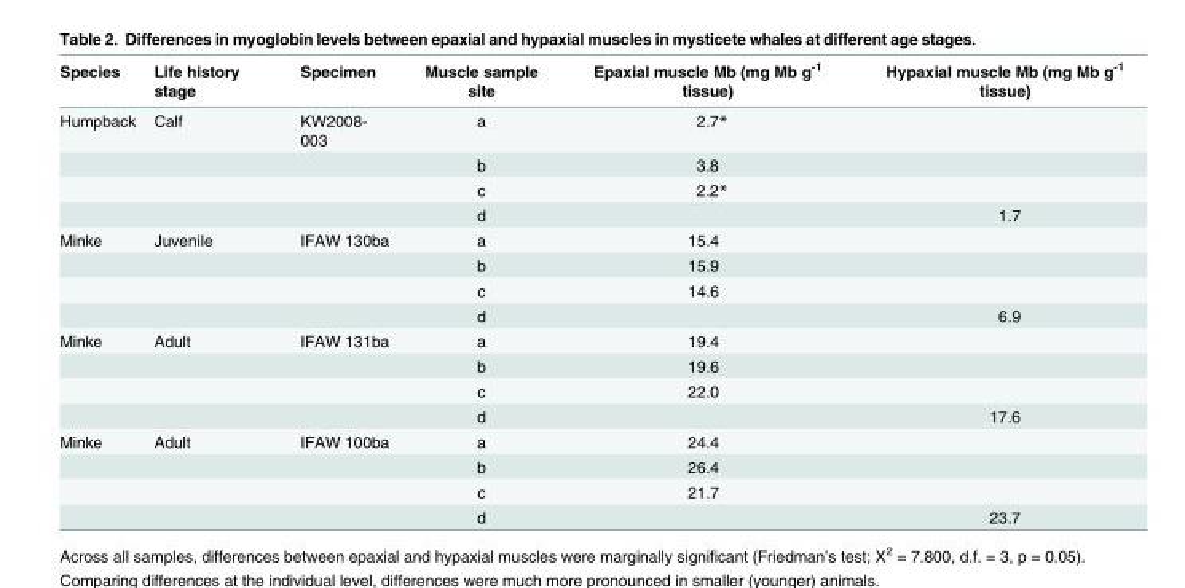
<table><thead><tr><td>Species</td><td>Life history stage</td><td>Specimen</td><td>Muscle sample site</td><td>Epaxial muscle Mb (mg Mb g<sup>-1</sup> tissue)</td><td>Hypaxial muscle Mb (mg Mb g<sup>-1</sup> tissue)</td></tr></thead><tbody><tr><td rowspan="4">Humpback</td><td>Calf</td><td>KW2008- 003</td><td>a</td><td>2.7*</td><td></td></tr><tr><td></td><td></td><td>b</td><td>3.8</td><td></td></tr><tr><td></td><td></td><td>c</td><td>2.2*</td><td></td></tr><tr><td></td><td></td><td>d</td><td></td><td>1.7</td></tr><tr><td rowspan="4">Minke</td><td>Juvenile</td><td>IFAW 130ba</td><td>a</td><td>15.4</td><td></td></tr><tr><td></td><td></td><td>b</td><td>15.9</td><td></td></tr><tr><td></td><td></td><td>c</td><td>14.6</td><td></td></tr><tr><td></td><td></td><td>d</td><td></td><td>6.9</td></tr><tr><td rowspan="4">Minke</td><td>Adult</td><td>IFAW 131ba</td><td>a</td><td>19.4</td><td></td></tr><tr><td></td><td></td><td>b</td><td>19.6</td><td></td></tr><tr><td></td><td></td><td>c</td><td>22.0</td><td></td></tr><tr><td></td><td></td><td>d</td><td></td><td>17.6</td></tr><tr><td rowspan="4">Minke</td><td>Adult</td><td>IFAW 100ba</td><td>a</td><td>24.4</td><td></td></tr><tr><td></td><td></td><td>b</td><td>26.4</td><td></td></tr><tr><td></td><td></td><td>c</td><td>21.7</td><td></td></tr><tr><td></td><td></td><td>d</td><td></td><td>23.7</td></tr></tbody></table>